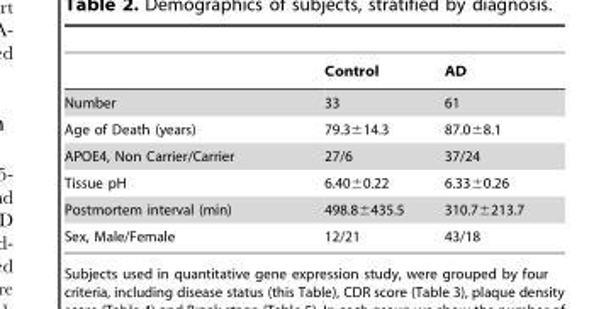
<table><thead><tr><td></td><td>Control</td><td>AD</td></tr></thead><tbody><tr><td>Number</td><td>33</td><td>61</td></tr><tr><td>Age of Death (years)</td><td>79.3±14.3</td><td>87.0±8.1</td></tr><tr><td>APOE4, Non Carrier/Carrier</td><td>27/6</td><td>37/24</td></tr><tr><td>Tissue pH</td><td>6.40±0.22</td><td>6.33±0.26</td></tr><tr><td>Postmortem interval (min)</td><td>498.8±435.5</td><td>310.7±213.7</td></tr><tr><td>Sex, Male/Female</td><td>12/21</td><td>43/18</td></tr></tbody></table>